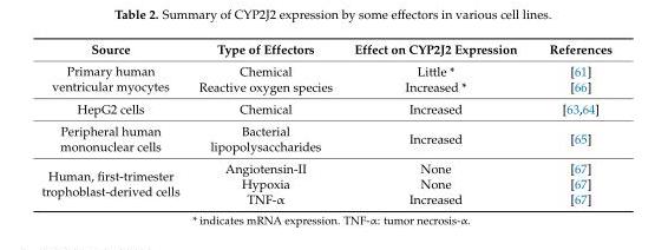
<table><thead><tr><td>Source</td><td>Type of Effectors</td><td>Effect on CYP2J2 Expression</td><td>References</td></tr></thead><tbody><tr><td rowspan="2">Primary human ventricular myocytes</td><td>Chemical</td><td>Little *</td><td>[61]</td></tr><tr><td>Reactive oxygen species</td><td>Increased *</td><td>[66]</td></tr><tr><td>HepG2 cells</td><td>Chemical</td><td>Increased</td><td>[63,64]</td></tr><tr><td>Peripheral human mononuclear cells</td><td>Bacterial lipopolysaccharides</td><td>Increased</td><td>[65]</td></tr><tr><td rowspan="3">Human, first-trimester trophoblast-derived cells</td><td>Angiotensin-II</td><td>None</td><td>[67]</td></tr><tr><td>Hypoxia</td><td>None</td><td>[67]</td></tr><tr><td>TNF-α</td><td>Increased</td><td>[67]</td></tr></tbody></table>